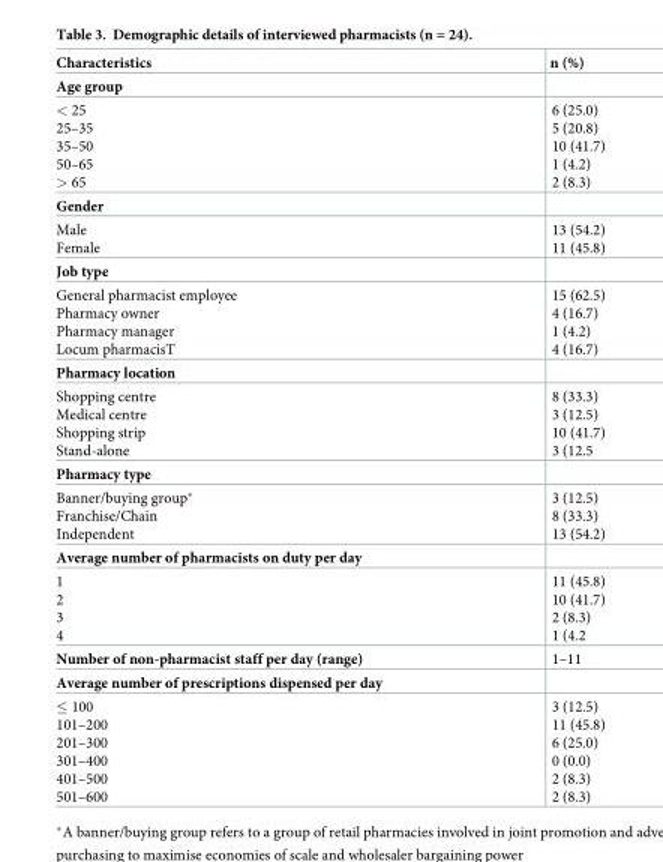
<table><thead><tr><td>Characteristics</td><td>n (%)</td></tr></thead><tbody><tr><td colspan="2">Age group</td></tr><tr><td>&lt; 25 25–35 35–50 50–65 &gt; 65</td><td>6 (25.0) 5 (20.8) 10 (41.7) 1 (4.2) 2 (8.3)</td></tr><tr><td colspan="2">Gender</td></tr><tr><td>Male Female</td><td>13 (54.2) 11 (45.8)</td></tr><tr><td colspan="2">Job type</td></tr><tr><td>General pharmacist employee Pharmacy owner Pharmacy manager Locum pharmacisT</td><td>15 (62.5) 4 (16.7) 1 (4.2) 4 (16.7)</td></tr><tr><td colspan="2">Pharmacy location</td></tr><tr><td>Shopping centre Medical centre Shopping strip Stand-alone</td><td>8 (33.3) 3 (12.5) 10 (41.7) 3 (12.5</td></tr><tr><td colspan="2">Pharmacy type</td></tr><tr><td>Banner/buying group* Franchise/Chain Independent</td><td>3 (12.5) 8 (33.3) 13 (54.2)</td></tr><tr><td colspan="2">Average number of pharmacists on duty per day</td></tr><tr><td>1 2 3 4</td><td>11 (45.8) 10 (41.7) 2 (8.3) 1 (4.2</td></tr><tr><td>Number of non-pharmacist staff per day (range)</td><td>1–11</td></tr><tr><td colspan="2">Average number of prescriptions dispensed per day</td></tr><tr><td>≤ 100 101–200 201–300 301–400 401–500 501–600</td><td>3 (12.5) 11 (45.8) 6 (25.0) 0 (0.0) 2 (8.3) 2 (8.3)</td></tr></tbody></table>